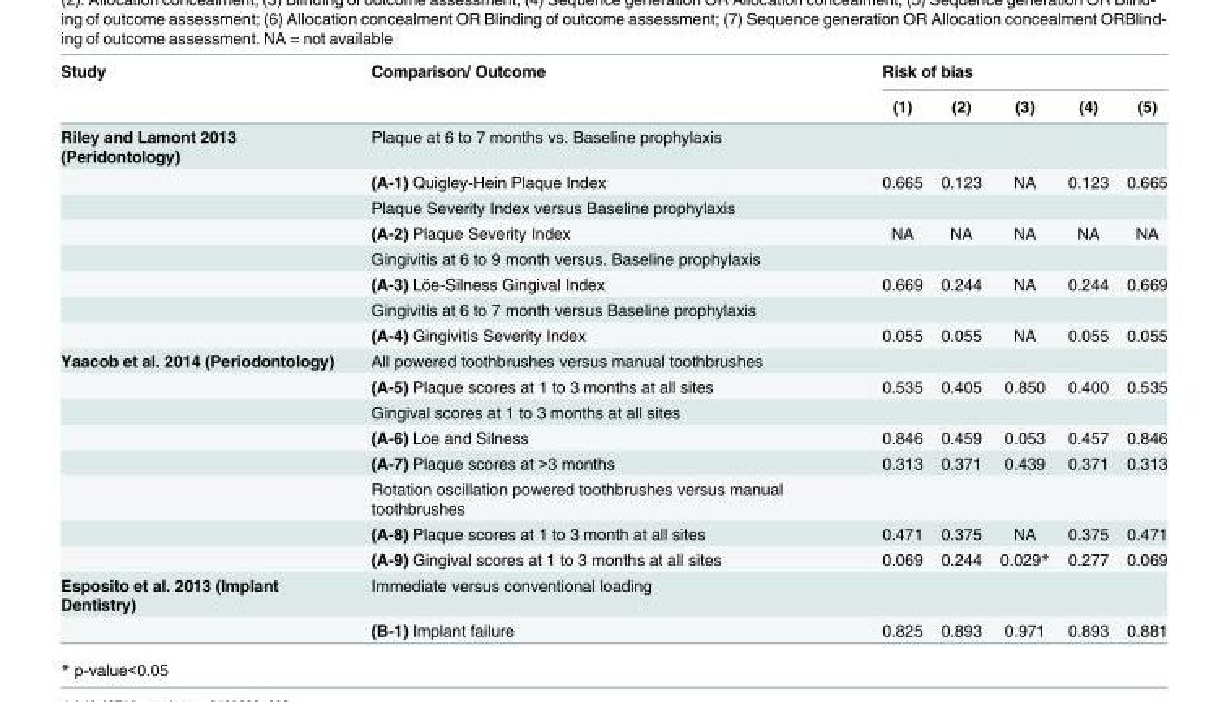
<table><thead><tr><td rowspan="2">Study</td><td rowspan="2">Comparison/ Outcome</td><td colspan="5">Risk of bias</td></tr><tr><td>(1)</td><td>(2)</td><td>(3)</td><td>(4)</td><td>(5)</td></tr></thead><tbody><tr><td rowspan="8">Riley and Lamont 2013 (Peridontology)</td><td>Plaque at 6 to 7 months vs. Baseline prophylaxis</td><td></td><td></td><td></td><td></td><td></td></tr><tr><td>(A-1) Quigley-Hein Plaque Index</td><td>0.665</td><td>0.123</td><td>NA</td><td>0.123</td><td>0.665</td></tr><tr><td>Plaque Severity Index versus Baseline prophylaxis</td><td></td><td></td><td></td><td></td><td></td></tr><tr><td>(A-2) Plaque Severity Index</td><td>NA</td><td>NA</td><td>NA</td><td>NA</td><td>NA</td></tr><tr><td>Gingivitis at 6 to 9 month versus. Baseline prophylaxis</td><td></td><td></td><td></td><td></td><td></td></tr><tr><td>(A-3) Löe-Silness Gingival Index</td><td>0.669</td><td>0.244</td><td>NA</td><td>0.244</td><td>0.669</td></tr><tr><td>Gingivitis at 6 to 7 month versus Baseline prophylaxis</td><td></td><td></td><td></td><td></td><td></td></tr><tr><td>(A-4) Gingivitis Severity Index</td><td>0.055</td><td>0.055</td><td>NA</td><td>0.055</td><td>0.055</td></tr><tr><td rowspan="8">Yaacob et al. 2014 (Periodontology)</td><td>All powered toothbrushes versus manual toothbrushes</td><td></td><td></td><td></td><td></td><td></td></tr><tr><td>(A-5) Plaque scores at 1 to 3 months at all sites</td><td>0.535</td><td>0.405</td><td>0.850</td><td>0.400</td><td>0.535</td></tr><tr><td>Gingival scores at 1 to 3 months at all sites</td><td></td><td></td><td></td><td></td><td></td></tr><tr><td>(A-6) Loe and Silness</td><td>0.846</td><td>0.459</td><td>0.053</td><td>0.457</td><td>0.846</td></tr><tr><td>(A-7) Plaque scores at &gt;3 months</td><td>0.313</td><td>0.371</td><td>0.439</td><td>0.371</td><td>0.313</td></tr><tr><td>Rotation oscillation powered toothbrushes versus manual toothbrushes</td><td></td><td></td><td></td><td></td><td></td></tr><tr><td>(A-8) Plaque scores at 1 to 3 month at all sites</td><td>0.471</td><td>0.375</td><td>NA</td><td>0.375</td><td>0.471</td></tr><tr><td>(A-9) Gingival scores at 1 to 3 months at all sites</td><td>0.069</td><td>0.244</td><td>0.029*</td><td>0.277</td><td>0.069</td></tr><tr><td rowspan="2">Esposito et al. 2013 (Implant Dentistry)</td><td>Immediate versus conventional loading</td><td></td><td></td><td></td><td></td><td></td></tr><tr><td>(B-1) Implant failure</td><td>0.825</td><td>0.893</td><td>0.971</td><td>0.893</td><td>0.881</td></tr></tbody></table>